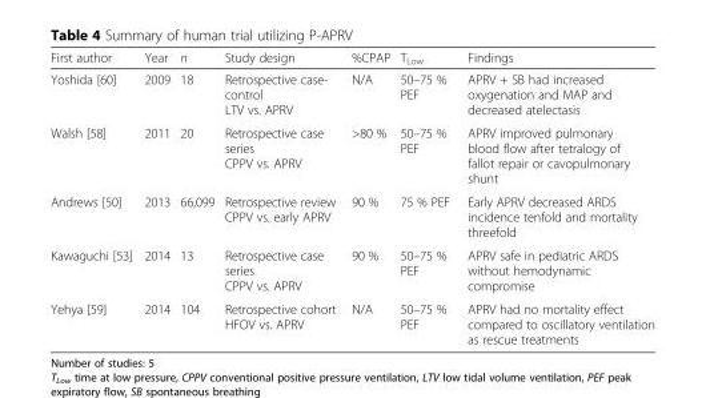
<table><thead><tr><td>First author</td><td>Year</td><td>n</td><td>Study design</td><td>%CPAP</td><td>T<sub>Low</sub></td><td>Findings</td></tr></thead><tbody><tr><td>Yoshida [60]</td><td>2009</td><td>18</td><td>Retrospective case- control LTV vs. APRV</td><td>N/A</td><td>50–75 % PEF</td><td>APRV + SB had increased oxygenation and MAP and decreased atelectasis</td></tr><tr><td>Walsh [58]</td><td>2011</td><td>20</td><td>Retrospective case series CPPV vs. APRV</td><td>&gt;80 %</td><td>50–75 % PEF</td><td>APRV improved pulmonary blood flow after tetralogy of fallot repair or cavopulmonary shunt</td></tr><tr><td>Andrews [50]</td><td>2013</td><td>66,099</td><td>Retrospective review CPPV vs. early APRV</td><td>90 %</td><td>75 % PEF</td><td>Early APRV decreased ARDS incidence tenfold and mortality threefold</td></tr><tr><td>Kawaguchi [53]</td><td>2014</td><td>13</td><td>Retrospective case series CPPV vs. APRV</td><td>90 %</td><td>50–75 % PEF</td><td>APRV safe in pediatric ARDS without hemodynamic compromise</td></tr><tr><td>Yehya [59]</td><td>2014</td><td>104</td><td>Retrospective cohort HFOV vs. APRV</td><td>N/A</td><td>50–75 % PEF</td><td>APRV had no mortality effect compared to oscillatory ventilation as rescue treatments</td></tr></tbody></table>